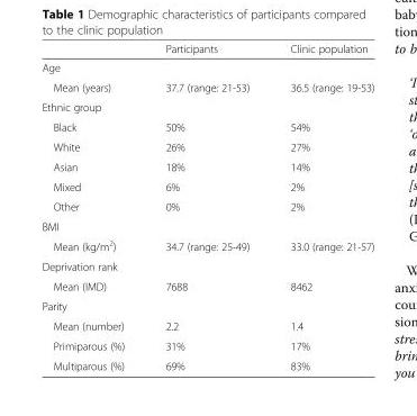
<table><thead><tr><td></td><td>Participants</td><td>Clinic population</td></tr></thead><tbody><tr><td colspan="3">Age</td></tr><tr><td>Mean (years)</td><td>37.7 (range: 21-53)</td><td>36.5 (range: 19-53)</td></tr><tr><td colspan="3">Ethnic group</td></tr><tr><td>Black</td><td>50%</td><td>54%</td></tr><tr><td>White</td><td>26%</td><td>27%</td></tr><tr><td>Asian</td><td>18%</td><td>14%</td></tr><tr><td>Mixed</td><td>6%</td><td>2%</td></tr><tr><td>Other</td><td>0%</td><td>2%</td></tr><tr><td colspan="3">BMI</td></tr><tr><td>Mean (kg/m<sup>2</sup>)</td><td>34.7 (range: 25-49)</td><td>33.0 (range: 21-57)</td></tr><tr><td colspan="3">Deprivation rank</td></tr><tr><td>Mean (IMD)</td><td>7688</td><td>8462</td></tr><tr><td colspan="3">Parity</td></tr><tr><td>Mean (number)</td><td>2.2</td><td>1.4</td></tr><tr><td>Primiparous (%)</td><td>31%</td><td>17%</td></tr><tr><td>Multiparous (%)</td><td>69%</td><td>83%</td></tr></tbody></table>